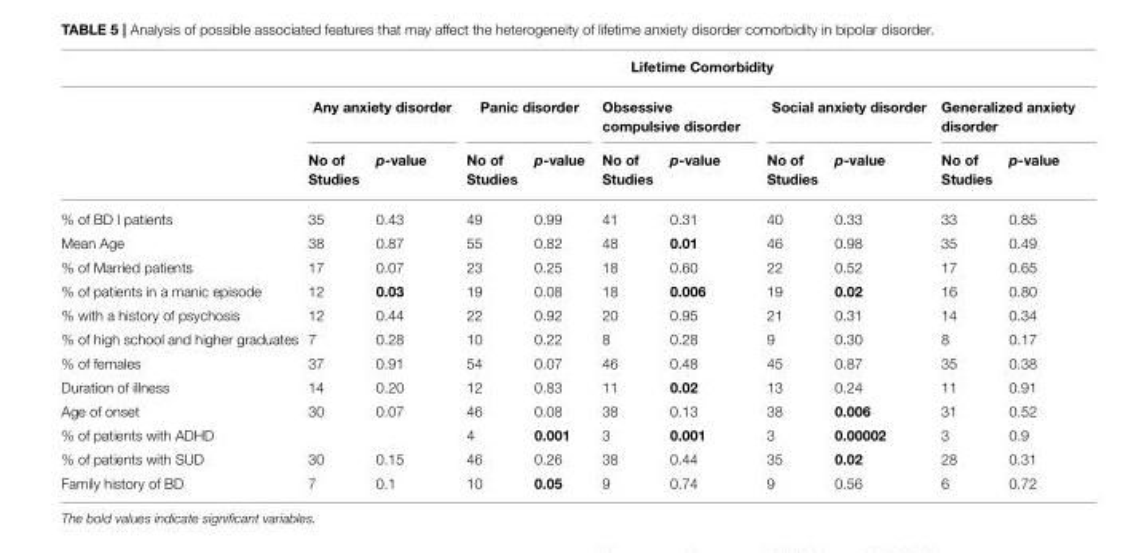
<table><thead><tr><td rowspan="3"></td><td colspan="10">Lifetime Comorbidity</td></tr><tr><td colspan="2">Any anxiety disorder</td><td colspan="2">Panic disorder</td><td colspan="2">Obsessive compulsive disorder</td><td colspan="2">Social anxiety disorder</td><td colspan="2">Generalized anxiety disorder</td></tr><tr><td>No of Studies</td><td>p-value</td><td>No of Studies</td><td>p-value</td><td>No of Studies</td><td>p-value</td><td>No of Studies</td><td>p-value</td><td>No of Studies</td><td>p-value</td></tr></thead><tbody><tr><td>% of BD I patients</td><td>35</td><td>0.43</td><td>49</td><td>0.99</td><td>41</td><td>0.31</td><td>40</td><td>0.33</td><td>33</td><td>0.85</td></tr><tr><td>Mean Age</td><td>38</td><td>0.87</td><td>55</td><td>0.82</td><td>48</td><td>0.01</td><td>46</td><td>0.98</td><td>35</td><td>0.49</td></tr><tr><td>% of Married patients</td><td>17</td><td>0.07</td><td>23</td><td>0.25</td><td>18</td><td>0.60</td><td>22</td><td>0.52</td><td>17</td><td>0.65</td></tr><tr><td>% of patients in a manic episode</td><td>12</td><td>0.03</td><td>19</td><td>0.08</td><td>18</td><td>0.006</td><td>19</td><td>0.02</td><td>16</td><td>0.80</td></tr><tr><td>% with a history of psychosis</td><td>12</td><td>0.44</td><td>22</td><td>0.92</td><td>20</td><td>0.95</td><td>21</td><td>0.31</td><td>14</td><td>0.34</td></tr><tr><td>% of high school and higher graduates</td><td>7</td><td>0.28</td><td>10</td><td>0.22</td><td>8</td><td>0.28</td><td>9</td><td>0.30</td><td>8</td><td>0.17</td></tr><tr><td>% of females</td><td>37</td><td>0.91</td><td>54</td><td>0.07</td><td>46</td><td>0.48</td><td>45</td><td>0.87</td><td>35</td><td>0.38</td></tr><tr><td>Duration of illness</td><td>14</td><td>0.20</td><td>12</td><td>0.83</td><td>11</td><td>0.02</td><td>13</td><td>0.24</td><td>11</td><td>0.91</td></tr><tr><td>Age of onset</td><td>30</td><td>0.07</td><td>46</td><td>0.08</td><td>38</td><td>0.13</td><td>38</td><td>0.006</td><td>31</td><td>0.52</td></tr><tr><td>% of patients with ADHD</td><td></td><td></td><td>4</td><td>0.001</td><td>3</td><td>0.001</td><td>3</td><td>0.00002</td><td>3</td><td>0.9</td></tr><tr><td>% of patients with SUD</td><td>30</td><td>0.15</td><td>46</td><td>0.26</td><td>38</td><td>0.44</td><td>35</td><td>0.02</td><td>28</td><td>0.31</td></tr><tr><td>Family history of BD</td><td>7</td><td>0.1</td><td>10</td><td>0.05</td><td>9</td><td>0.74</td><td>9</td><td>0.56</td><td>6</td><td>0.72</td></tr></tbody></table>